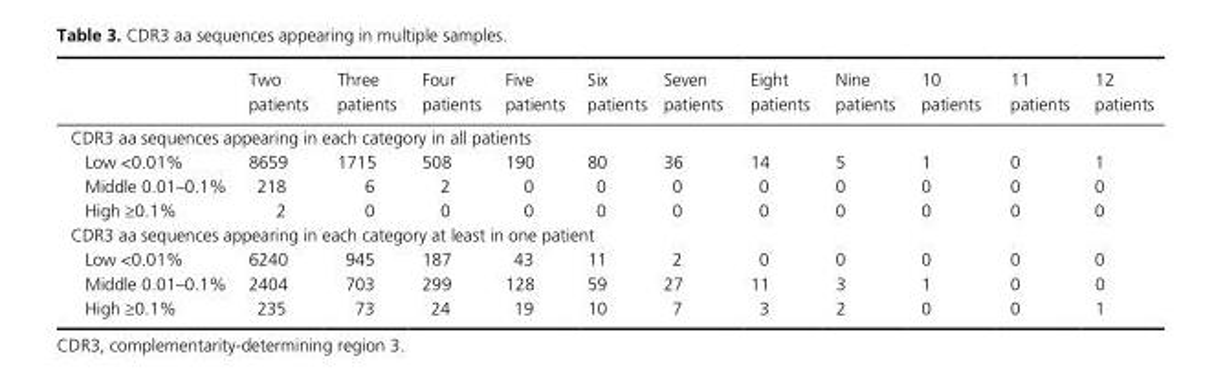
<table><thead><tr><td></td><td>Two patients</td><td>Three patients</td><td>Four patients</td><td>Five patients</td><td>Six patients</td><td>Seven patients</td><td>Eight patients</td><td>Nine patients</td><td>10 patients</td><td>11 patients</td><td>12 patients</td></tr></thead><tbody><tr><td colspan="12">CDR3 aa sequences appearing in each category in all patients</td></tr><tr><td>Low &lt;0.01%</td><td>8659</td><td>1715</td><td>508</td><td>190</td><td>80</td><td>36</td><td>14</td><td>5</td><td>1</td><td>0</td><td>1</td></tr><tr><td>Middle 0.01–0.1%</td><td>218</td><td>6</td><td>2</td><td>0</td><td>0</td><td>0</td><td>0</td><td>0</td><td>0</td><td>0</td><td>0</td></tr><tr><td>High ≥0.1%</td><td>2</td><td>0</td><td>0</td><td>0</td><td>0</td><td>0</td><td>0</td><td>0</td><td>0</td><td>0</td><td>0</td></tr><tr><td colspan="12">CDR3 aa sequences appearing in each category at least in one patient</td></tr><tr><td>Low &lt;0.01%</td><td>6240</td><td>945</td><td>187</td><td>43</td><td>11</td><td>2</td><td>0</td><td>0</td><td>0</td><td>0</td><td>0</td></tr><tr><td>Middle 0.01–0.1%</td><td>2404</td><td>703</td><td>299</td><td>128</td><td>59</td><td>27</td><td>11</td><td>3</td><td>1</td><td>0</td><td>0</td></tr><tr><td>High ≥0.1%</td><td>235</td><td>73</td><td>24</td><td>19</td><td>10</td><td>7</td><td>3</td><td>2</td><td>0</td><td>0</td><td>1</td></tr></tbody></table>